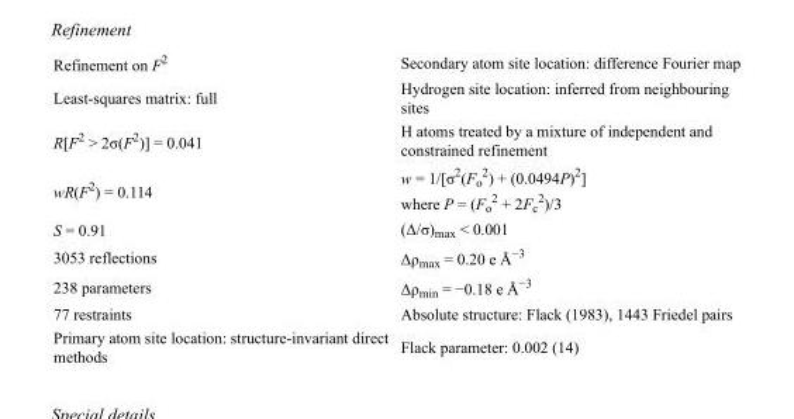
<table><tbody><tr><td>Refinement on F<sup>2</sup></td><td>Secondary atom site location: difference Fourier map</td></tr><tr><td>Least-squares matrix: full</td><td>Hydrogen site location: inferred from neighbouring sites</td></tr><tr><td>R[F<sup>2</sup> &gt; 2σ(F<sup>2</sup>)] = 0.041</td><td>H atoms treated by a mixture of independent and constrained refinement</td></tr><tr><td>wR(F<sup>2</sup>) = 0.114</td><td>w = 1/[σ<sup>2</sup>(F<sub>o</sub> <sup>2</sup>) + (0.0494P)<sup>2</sup>] where P = (F<sub>o</sub> <sup>2</sup> + 2F<sub>c</sub> <sup>2</sup>)/3</td></tr><tr><td>S = 0.91</td><td>(Δ/σ)<sub>max</sub> &lt; 0.001</td></tr><tr><td>3053 reflections</td><td>Δρ<sub>max</sub> = 0.20 e Å<sup>−3</sup></td></tr><tr><td>238 parameters</td><td>Δρ<sub>min</sub> = −0.18 e Å<sup>−3</sup></td></tr><tr><td>77 restraints</td><td>Absolute structure: Flack (1983), 1443 Friedel pairs</td></tr><tr><td>Primary atom site location: structure-invariant direct methods</td><td>Flack parameter: 0.002 (14)</td></tr></tbody></table>